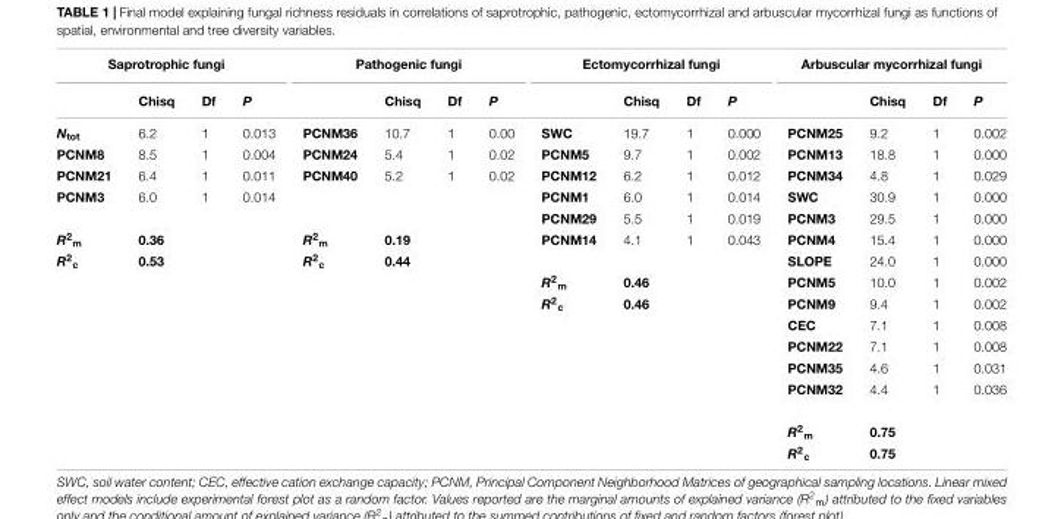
<table><thead><tr><td colspan="4">Saprotrophic fungi</td><td colspan="4">Pathogenic fungi</td><td colspan="4">Ectomycorrhizal fungi</td><td colspan="4">Arbuscular mycorrhizal fungi</td></tr><tr><td></td><td>Chisq</td><td>Df</td><td>P</td><td></td><td>Chisq</td><td>Df</td><td>P</td><td></td><td>Chisq</td><td>Df</td><td>P</td><td></td><td>Chisq</td><td>Df</td><td>P</td></tr></thead><tbody><tr><td>N<sub>tot</sub></td><td>6.2</td><td>1</td><td>0.013</td><td>PCNM36</td><td>10.7</td><td>1</td><td>0.00</td><td>SWC</td><td>19.7</td><td>1</td><td>0.000</td><td>PCNM25</td><td>9.2</td><td>1</td><td>0.002</td></tr><tr><td>PCNM8</td><td>8.5</td><td>1</td><td>0.004</td><td>PCNM24</td><td>5.4</td><td>1</td><td>0.02</td><td>PCNM5</td><td>9.7</td><td>1</td><td>0.002</td><td>PCNM13</td><td>18.8</td><td>1</td><td>0.000</td></tr><tr><td>PCNM21</td><td>6.4</td><td>1</td><td>0.011</td><td>PCNM40</td><td>5.2</td><td>1</td><td>0.02</td><td>PCNM12</td><td>6.2</td><td>1</td><td>0.012</td><td>PCNM34</td><td>4.8</td><td>1</td><td>0.029</td></tr><tr><td rowspan="2">PCNM3</td><td>6.0</td><td>1</td><td>0.014</td><td></td><td></td><td></td><td></td><td>PCNM1</td><td>6.0</td><td>1</td><td>0.014</td><td>SWC</td><td>30.9</td><td>1</td><td>0.000</td></tr><tr><td></td><td></td><td></td><td></td><td></td><td></td><td></td><td>PCNM29</td><td>5.5</td><td>1</td><td>0.019</td><td>PCNM3</td><td>29.5</td><td>1</td><td>0.000</td></tr><tr><td>R<sup>2</sup><sub>m</sub></td><td>0.36</td><td></td><td></td><td>R<sup>2</sup><sub>m</sub></td><td>0.19</td><td></td><td></td><td>PCNM14</td><td>4.1</td><td>1</td><td>0.043</td><td>PCNM4</td><td>15.4</td><td>1</td><td>0.000</td></tr><tr><td rowspan="9">R<sup>2</sup><sub>c</sub></td><td>0.53</td><td></td><td></td><td>R<sup>2</sup><sub>c</sub></td><td>0.44</td><td></td><td></td><td></td><td></td><td></td><td></td><td>SLOPE</td><td>24.0</td><td>1</td><td>0.000</td></tr><tr><td></td><td></td><td></td><td></td><td></td><td></td><td></td><td>R<sup>2</sup><sub>m</sub></td><td>0.46</td><td></td><td></td><td>PCNM5</td><td>10.0</td><td>1</td><td>0.002</td></tr><tr><td></td><td></td><td></td><td></td><td></td><td></td><td></td><td>R<sup>2</sup><sub>c</sub></td><td>0.46</td><td></td><td></td><td>PCNM9</td><td>9.4</td><td>1</td><td>0.002</td></tr><tr><td></td><td></td><td></td><td></td><td></td><td></td><td></td><td></td><td></td><td></td><td></td><td>CEC</td><td>7.1</td><td>1</td><td>0.008</td></tr><tr><td></td><td></td><td></td><td></td><td></td><td></td><td></td><td></td><td></td><td></td><td></td><td>PCNM22</td><td>7.1</td><td>1</td><td>0.008</td></tr><tr><td></td><td></td><td></td><td></td><td></td><td></td><td></td><td></td><td></td><td></td><td></td><td>PCNM35</td><td>4.6</td><td>1</td><td>0.031</td></tr><tr><td></td><td></td><td></td><td></td><td></td><td></td><td></td><td></td><td></td><td></td><td></td><td>PCNM32</td><td>4.4</td><td>1</td><td>0.036</td></tr><tr><td></td><td></td><td></td><td></td><td></td><td></td><td></td><td></td><td></td><td></td><td></td><td>R<sup>2</sup><sub>m</sub></td><td>0.75</td><td></td><td></td></tr><tr><td></td><td></td><td></td><td></td><td></td><td></td><td></td><td></td><td></td><td></td><td></td><td>R<sup>2</sup><sub>c</sub></td><td>0.75</td><td></td><td></td></tr></tbody></table>